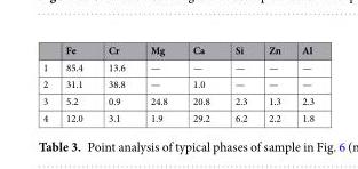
<table><thead><tr><td></td><td>Fe</td><td>Cr</td><td>Mg</td><td>Ca</td><td>Si</td><td>Zn</td><td>Al</td></tr></thead><tbody><tr><td>1</td><td>85.4</td><td>13.6</td><td>—</td><td>—</td><td>—</td><td>—</td><td>—</td></tr><tr><td>2</td><td>31.1</td><td>38.8</td><td>—</td><td>1.0</td><td>—</td><td>—</td><td>—</td></tr><tr><td>3</td><td>5.2</td><td>0.9</td><td>24.8</td><td>20.8</td><td>2.3</td><td>1.3</td><td>2.3</td></tr><tr><td>4</td><td>12.0</td><td>3.1</td><td>1.9</td><td>29.2</td><td>6.2</td><td>2.2</td><td>1.8</td></tr></tbody></table>